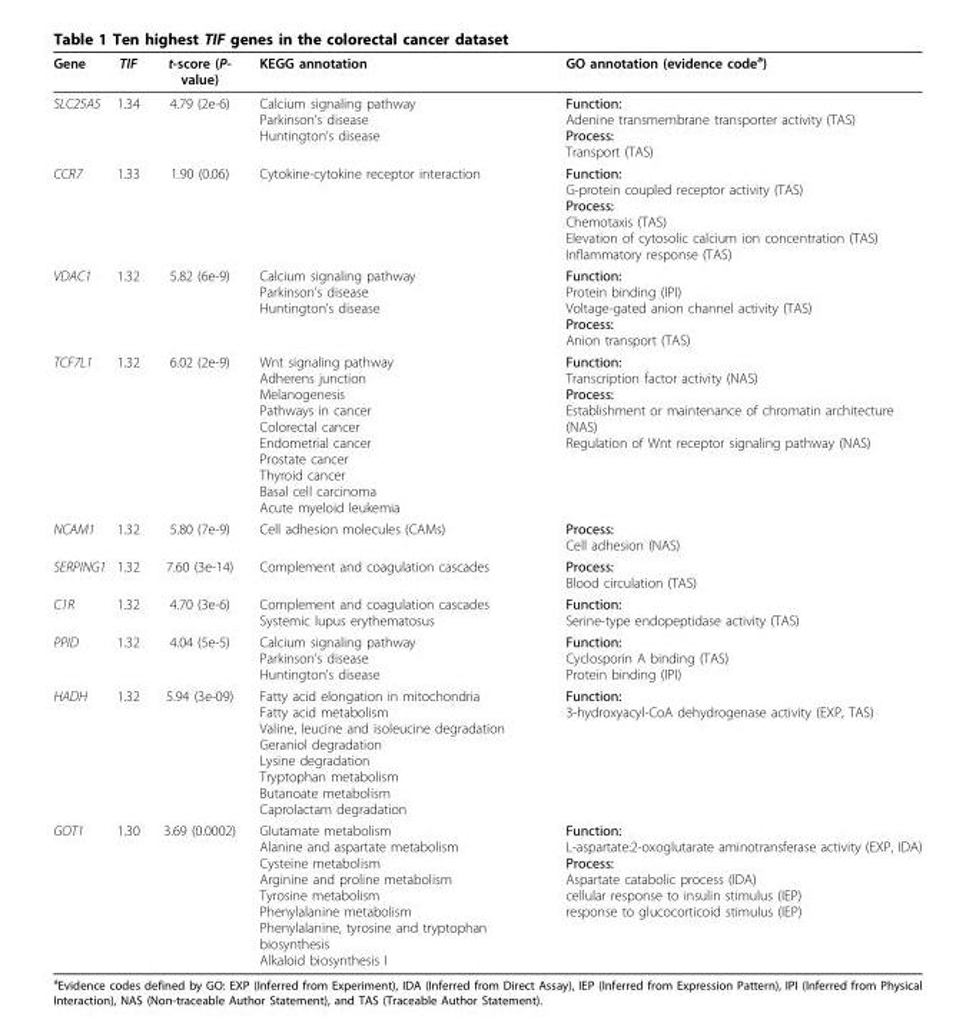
<table><thead><tr><td>Gene</td><td>TIF</td><td>t-score (P- value)</td><td>KEGG annotation</td><td>GO annotation (evidence code<sup>a</sup>)</td></tr></thead><tbody><tr><td>SLC25A5</td><td>1.34</td><td>4.79 (2e-6)</td><td>Calcium signaling pathway Parkinson’s disease Huntington’s disease</td><td>Function: Adenine transmembrane transporter activity (TAS) Process: Transport (TAS)</td></tr><tr><td>CCR7</td><td>1.33</td><td>1.90 (0.06)</td><td>Cytokine-cytokine receptor interaction</td><td>Function: G-protein coupled receptor activity (TAS) Process: Chemotaxis (TAS) Elevation of cytosolic calcium ion concentration (TAS) Inflammatory response (TAS)</td></tr><tr><td>VDAC1</td><td>1.32</td><td>5.82 (6e-9)</td><td>Calcium signaling pathway Parkinson’s disease Huntington’s disease</td><td>Function: Protein binding (IPI) Voltage-gated anion channel activity (TAS) Process: Anion transport (TAS)</td></tr><tr><td>TCF7L1</td><td>1.32</td><td>6.02 (2e-9)</td><td>Wnt signaling pathway Adherens junction Melanogenesis Pathways in cancer Colorectal cancer Endometrial cancer Prostate cancer Thyroid cancer Basal cell carcinoma Acute myeloid leukemia</td><td>Function: Transcription factor activity (NAS) Process: Establishment or maintenance of chromatin architecture (NAS) Regulation of Wnt receptor signaling pathway (NAS)</td></tr><tr><td>NCAM1</td><td>1.32</td><td>5.80 (7e-9)</td><td>Cell adhesion molecules (CAMs)</td><td>Process: Cell adhesion (NAS)</td></tr><tr><td>SERPING1</td><td>1.32</td><td>7.60 (3e-14)</td><td>Complement and coagulation cascades</td><td>Process: Blood circulation (TAS)</td></tr><tr><td>C1R</td><td>1.32</td><td>4.70 (3e-6)</td><td>Complement and coagulation cascades Systemic lupus erythematosus</td><td>Function: Serine-type endopeptidase activity (TAS)</td></tr><tr><td>PPID</td><td>1.32</td><td>4.04 (5e-5)</td><td>Calcium signaling pathway Parkinson’s disease Huntington’s disease</td><td>Function: Cyclosporin A binding (TAS) Protein binding (IPI)</td></tr><tr><td>HADH</td><td>1.32</td><td>5.94 (3e-09)</td><td>Fatty acid elongation in mitochondria Fatty acid metabolism Valine, leucine and isoleucine degradation Geraniol degradation Lysine degradation Tryptophan metabolism Butanoate metabolism Caprolactam degradation</td><td>Function: 3-hydroxyacyl-CoA dehydrogenase activity (EXP, TAS)</td></tr><tr><td>GOT1</td><td>1.30</td><td>3.69 (0.0002)</td><td>Glutamate metabolism Alanine and aspartate metabolism Cysteine metabolism Arginine and proline metabolism Tyrosine metabolism Phenylalanine metabolism Phenylalanine, tyrosine and tryptophan biosynthesis Alkaloid biosynthesis I</td><td>Function: L-aspartate:2-oxoglutarate aminotransferase activity (EXP, IDA) Process: Aspartate catabolic process (IDA) cellular response to insulin stimulus (IEP) response to glucocorticoid stimulus (IEP)</td></tr></tbody></table>